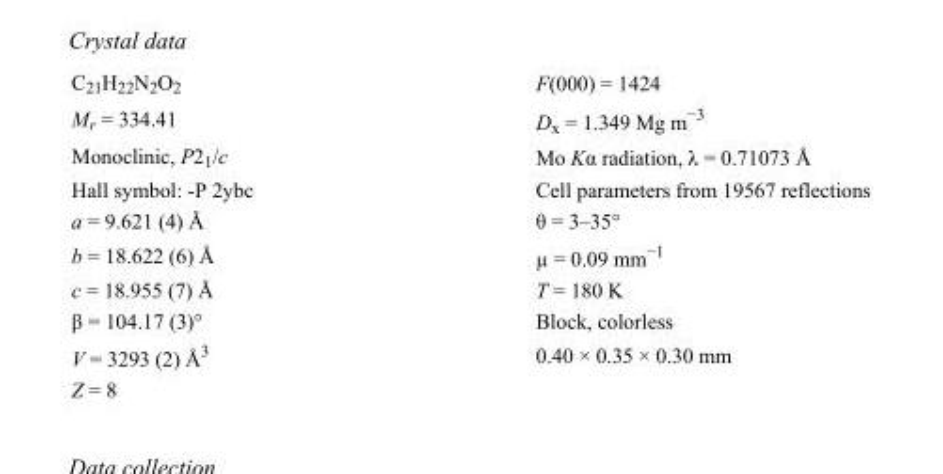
<table><tbody><tr><td>C<sub>21</sub>H<sub>22</sub>N<sub>2</sub>O<sub>2</sub></td><td>F(000) = 1424</td></tr><tr><td>M<sub>r</sub> = 334.41</td><td>D<sub>x</sub> = 1.349 Mg m<sup>−3</sup></td></tr><tr><td>Monoclinic, P2<sub>1</sub>/c</td><td>Mo Kα radiation, λ = 0.71073 Å</td></tr><tr><td>Hall symbol: -P 2ybc</td><td>Cell parameters from 19567 reflections</td></tr><tr><td>a = 9.621 (4) Å</td><td>θ = 3–35°</td></tr><tr><td>b = 18.622 (6) Å</td><td>µ = 0.09 mm<sup>−1</sup></td></tr><tr><td>c = 18.955 (7) Å</td><td>T = 180 K</td></tr><tr><td>β = 104.17 (3)°</td><td>Block, colorless</td></tr><tr><td>V = 3293 (2) Å<sup>3</sup></td><td>0.40 × 0.35 × 0.30 mm</td></tr><tr><td>Z = 8</td><td></td></tr></tbody></table>